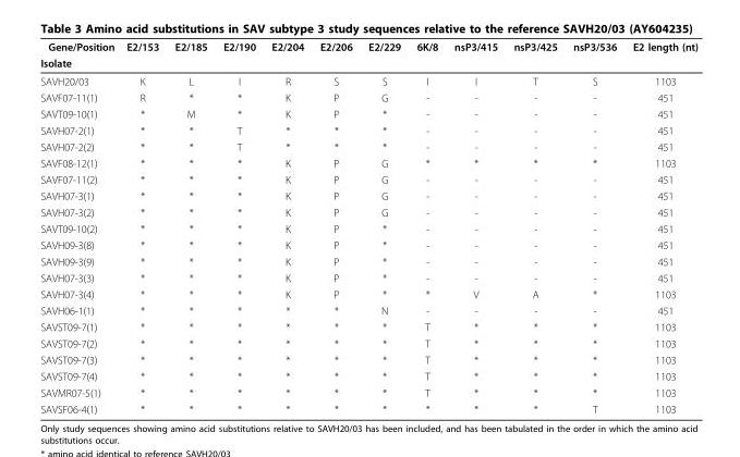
<table><thead><tr><td rowspan="2">Gene/Position Isolate</td><td rowspan="2">E2/153</td><td rowspan="2">E2/185</td><td rowspan="2">E2/190</td><td rowspan="2">E2/204</td><td rowspan="2">E2/206</td><td rowspan="2">E2/229</td><td rowspan="2">6K/8</td><td rowspan="2">nsP3/415</td><td rowspan="2">nsP3/425</td><td rowspan="2">nsP3/536</td><td rowspan="2">E2 length (nt)</td></tr><tr></tr></thead><tbody><tr><td>SAVH20/03</td><td>K</td><td>L</td><td>I</td><td>R</td><td>S</td><td>S</td><td>I</td><td>I</td><td>T</td><td>S</td><td>1103</td></tr><tr><td>SAVF07-11(1)</td><td>R</td><td>*</td><td>*</td><td>K</td><td>P</td><td>G</td><td>-</td><td>-</td><td>-</td><td>-</td><td>451</td></tr><tr><td>SAVT09-10(1)</td><td>*</td><td>M</td><td>*</td><td>K</td><td>P</td><td>*</td><td>-</td><td>-</td><td>-</td><td>-</td><td>451</td></tr><tr><td>SAVH07-2(1)</td><td>*</td><td>*</td><td>T</td><td>*</td><td>*</td><td>*</td><td>-</td><td>-</td><td>-</td><td>-</td><td>451</td></tr><tr><td>SAVH07-2(2)</td><td>*</td><td>*</td><td>T</td><td>*</td><td>*</td><td>*</td><td>-</td><td>-</td><td>-</td><td>-</td><td>451</td></tr><tr><td>SAVF08-12(1)</td><td>*</td><td>*</td><td>*</td><td>K</td><td>P</td><td>G</td><td>*</td><td>*</td><td>*</td><td>*</td><td>1103</td></tr><tr><td>SAVF07-11(2)</td><td>*</td><td>*</td><td>*</td><td>K</td><td>P</td><td>G</td><td>-</td><td>-</td><td>-</td><td>-</td><td>451</td></tr><tr><td>SAVH07-3(1)</td><td>*</td><td>*</td><td>*</td><td>K</td><td>P</td><td>G</td><td>-</td><td>-</td><td>-</td><td>-</td><td>451</td></tr><tr><td>SAVH07-3(2)</td><td>*</td><td>*</td><td>*</td><td>K</td><td>P</td><td>G</td><td>-</td><td>-</td><td>-</td><td>-</td><td>451</td></tr><tr><td>SAVT09-10(2)</td><td>*</td><td>*</td><td>*</td><td>K</td><td>P</td><td>*</td><td>-</td><td>-</td><td>-</td><td>-</td><td>451</td></tr><tr><td>SAVH09-3(8)</td><td>*</td><td>*</td><td>*</td><td>K</td><td>P</td><td>*</td><td>-</td><td>-</td><td>-</td><td>-</td><td>451</td></tr><tr><td>SAVH09-3(9)</td><td>*</td><td>*</td><td>*</td><td>K</td><td>P</td><td>*</td><td>-</td><td>-</td><td>-</td><td>-</td><td>451</td></tr><tr><td>SAVH07-3(3)</td><td>*</td><td>*</td><td>*</td><td>K</td><td>P</td><td>*</td><td>-</td><td>-</td><td>-</td><td>-</td><td>451</td></tr><tr><td>SAVH07-3(4)</td><td>*</td><td>*</td><td>*</td><td>K</td><td>P</td><td>*</td><td>*</td><td>V</td><td>A</td><td>*</td><td>1103</td></tr><tr><td>SAVH06-1(1)</td><td>*</td><td>*</td><td>*</td><td>*</td><td>*</td><td>N</td><td>-</td><td>-</td><td>-</td><td>-</td><td>451</td></tr><tr><td>SAVST09-7(1)</td><td>*</td><td>*</td><td>*</td><td>*</td><td>*</td><td>*</td><td>T</td><td>*</td><td>*</td><td>*</td><td>1103</td></tr><tr><td>SAVST09-7(2)</td><td>*</td><td>*</td><td>*</td><td>*</td><td>*</td><td>*</td><td>T</td><td>*</td><td>*</td><td>*</td><td>1103</td></tr><tr><td>SAVST09-7(3)</td><td>*</td><td>*</td><td>*</td><td>*</td><td>*</td><td>*</td><td>T</td><td>*</td><td>*</td><td>*</td><td>1103</td></tr><tr><td>SAVST09-7(4)</td><td>*</td><td>*</td><td>*</td><td>*</td><td>*</td><td>*</td><td>T</td><td>*</td><td>*</td><td>*</td><td>1103</td></tr><tr><td>SAVMR07-5(1)</td><td>*</td><td>*</td><td>*</td><td>*</td><td>*</td><td>*</td><td>T</td><td>*</td><td>*</td><td>*</td><td>1103</td></tr><tr><td>SAVSF06-4(1)</td><td>*</td><td>*</td><td>*</td><td>*</td><td>*</td><td>*</td><td>*</td><td>*</td><td>*</td><td>T</td><td>1103</td></tr></tbody></table>